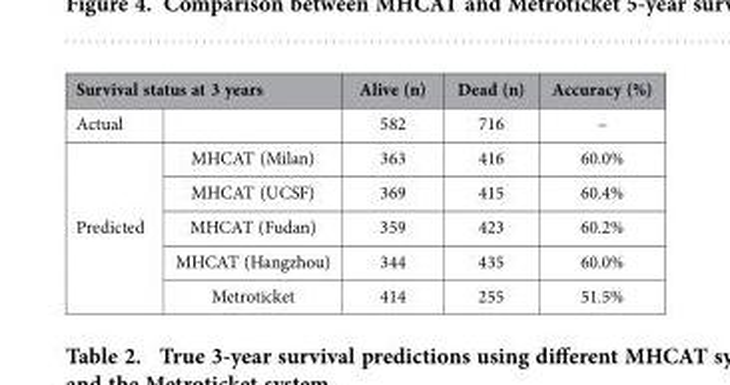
<table><thead><tr><td colspan="2">Survival status at 3 years</td><td rowspan="2">Alive (n) 582</td><td rowspan="2">Dead (n) 716</td><td rowspan="2">Accuracy (%) –</td></tr><tr><td>Actual</td><td></td></tr></thead><tbody><tr><td rowspan="5">Predicted</td><td>MHCAT (Milan)</td><td>363</td><td>416</td><td>60.0%</td></tr><tr><td>MHCAT (UCSF)</td><td>369</td><td>415</td><td>60.4%</td></tr><tr><td>MHCAT (Fudan)</td><td>359</td><td>423</td><td>60.2%</td></tr><tr><td>MHCAT (Hangzhou)</td><td>344</td><td>435</td><td>60.0%</td></tr><tr><td>Metroticket</td><td>414</td><td>255</td><td>51.5%</td></tr></tbody></table>